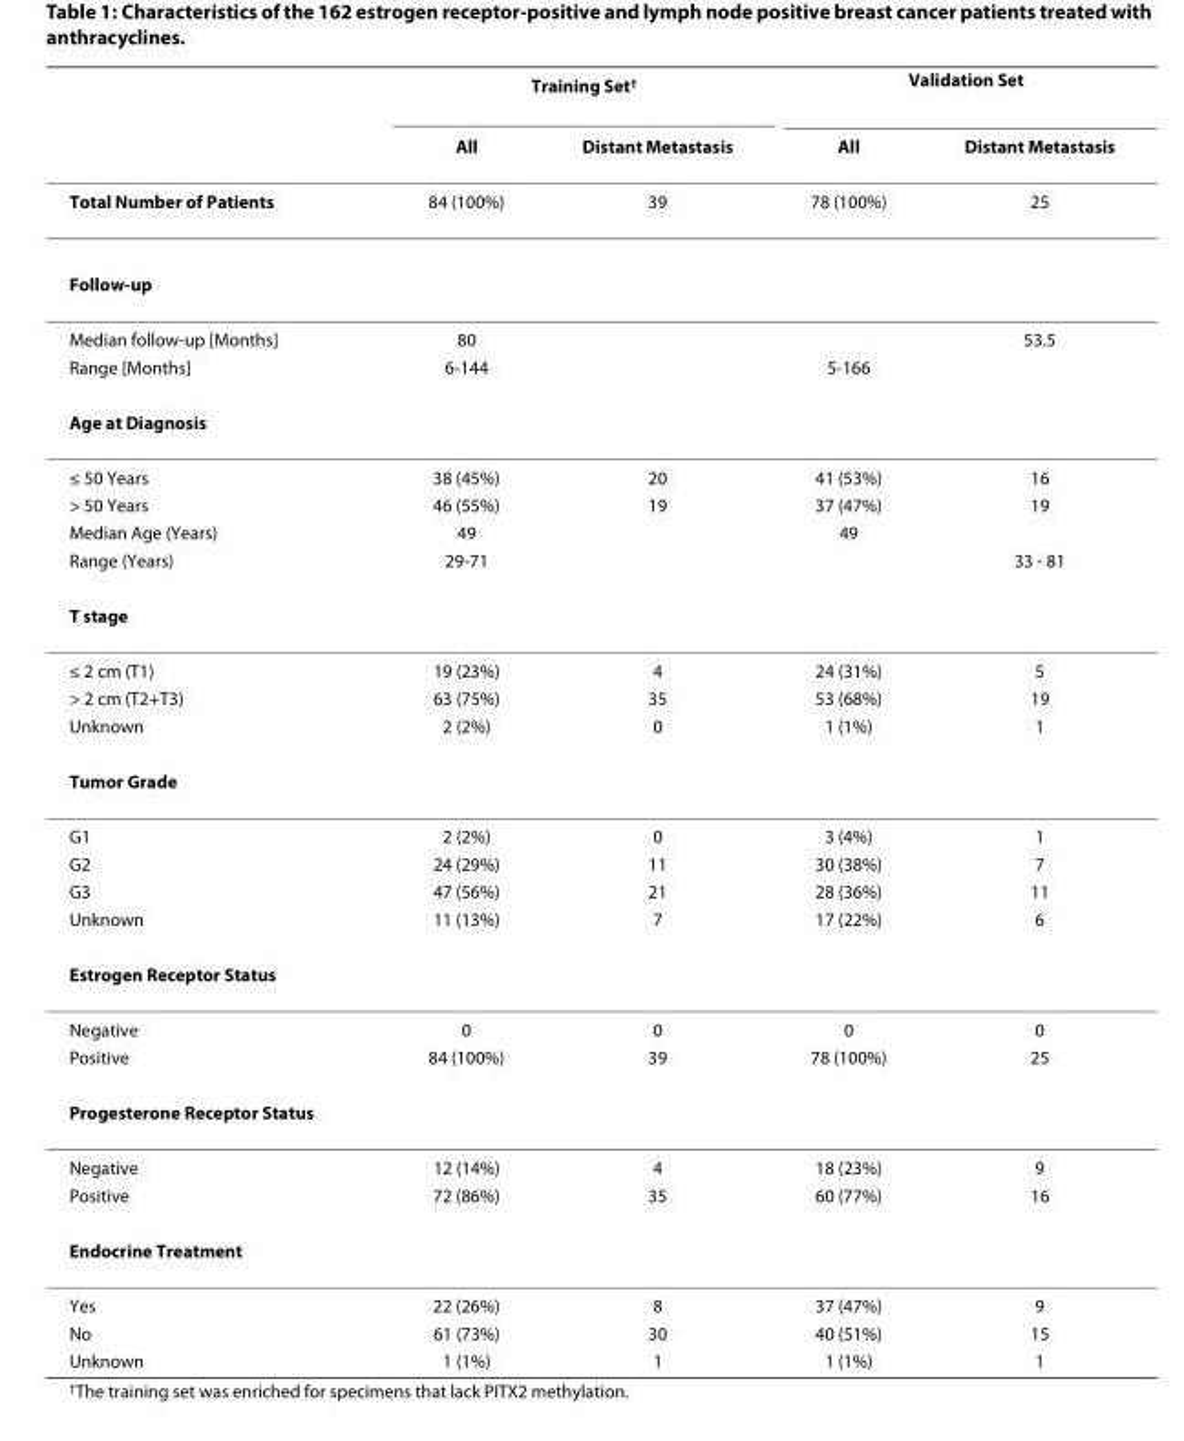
<table><thead><tr><td rowspan="2"></td><td colspan="2">Training Set<sup>†</sup></td><td colspan="2">Validation Set</td></tr><tr><td>All</td><td>Distant Metastasis</td><td>All</td><td>Distant Metastasis</td></tr></thead><tbody><tr><td>Total Number of Patients</td><td>84 (100%)</td><td>39</td><td>78 (100%)</td><td>25</td></tr><tr><td colspan="5">Follow-up</td></tr><tr><td>Median follow-up [Months]</td><td>80</td><td></td><td></td><td>53.5</td></tr><tr><td>Range [Months]</td><td>6-144</td><td></td><td>5-166</td><td></td></tr><tr><td colspan="5">Age at Diagnosis</td></tr><tr><td>≤ 50 Years</td><td>38 (45%)</td><td>20</td><td>41 (53%)</td><td>16</td></tr><tr><td>&gt; 50 Years</td><td>46 (55%)</td><td>19</td><td>37 (47%)</td><td>19</td></tr><tr><td>Median Age (Years)</td><td>49</td><td></td><td>49</td><td></td></tr><tr><td>Range (Years)</td><td>29-71</td><td></td><td></td><td>33 - 81</td></tr><tr><td colspan="5">T stage</td></tr><tr><td>≤ 2 cm (T1)</td><td>19 (23%)</td><td>4</td><td>24 (31%)</td><td>5</td></tr><tr><td>&gt; 2 cm (T2+T3)</td><td>63 (75%)</td><td>35</td><td>53 (68%)</td><td>19</td></tr><tr><td>Unknown</td><td>2 (2%)</td><td>0</td><td>1 (1%)</td><td>1</td></tr><tr><td colspan="5">Tumor Grade</td></tr><tr><td>G1</td><td>2 (2%)</td><td>0</td><td>3 (4%)</td><td>1</td></tr><tr><td>G2</td><td>24 (29%)</td><td>11</td><td>30 (38%)</td><td>7</td></tr><tr><td>G3</td><td>47 (56%)</td><td>21</td><td>28 (36%)</td><td>11</td></tr><tr><td>Unknown</td><td>11 (13%)</td><td>7</td><td>17 (22%)</td><td>6</td></tr><tr><td colspan="5">Estrogen Receptor Status</td></tr><tr><td>Negative</td><td>0</td><td>0</td><td>0</td><td>0</td></tr><tr><td>Positive</td><td>84 (100%)</td><td>39</td><td>78 (100%)</td><td>25</td></tr><tr><td colspan="5">Progesterone Receptor Status</td></tr><tr><td>Negative</td><td>12 (14%)</td><td>4</td><td>18 (23%)</td><td>9</td></tr><tr><td>Positive</td><td>72 (86%)</td><td>35</td><td>60 (77%)</td><td>16</td></tr><tr><td colspan="5">Endocrine Treatment</td></tr><tr><td>Yes</td><td>22 (26%)</td><td>8</td><td>37 (47%)</td><td>9</td></tr><tr><td>No</td><td>61 (73%)</td><td>30</td><td>40 (51%)</td><td>15</td></tr><tr><td>Unknown</td><td>1 (1%)</td><td>1</td><td>1 (1%)</td><td>1</td></tr></tbody></table>